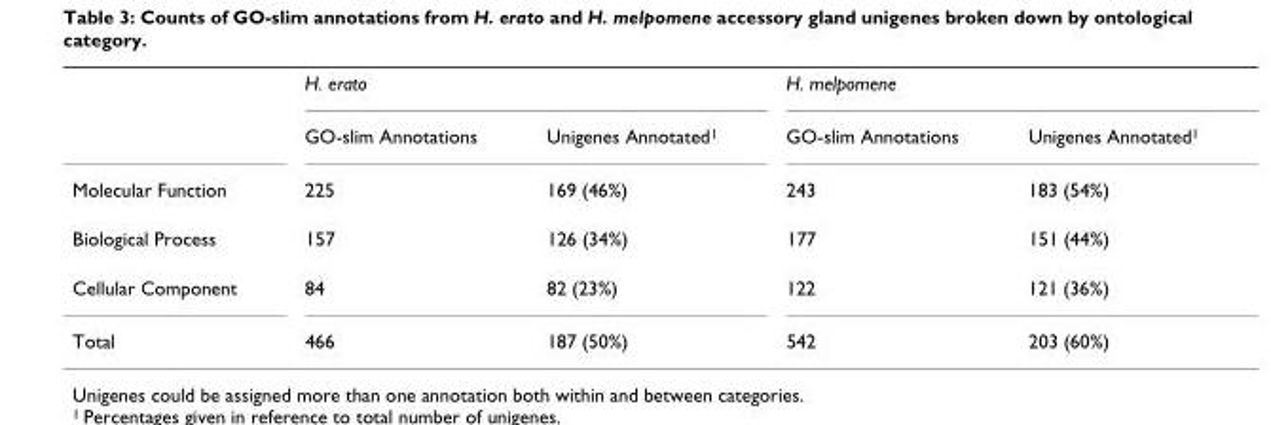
<table><thead><tr><td rowspan="2"></td><td colspan="2">H. erato</td><td colspan="2">H. melpomene</td></tr><tr><td>GO-slim Annotations</td><td>Unigenes Annotated<sup>1</sup></td><td>GO-slim Annotations</td><td>Unigenes Annotated<sup>1</sup></td></tr></thead><tbody><tr><td>Molecular Function</td><td>225</td><td>169 (46%)</td><td>243</td><td>183 (54%)</td></tr><tr><td>Biological Process</td><td>157</td><td>126 (34%)</td><td>177</td><td>151 (44%)</td></tr><tr><td>Cellular Component</td><td>84</td><td>82 (23%)</td><td>122</td><td>121 (36%)</td></tr><tr><td>Total</td><td>466</td><td>187 (50%)</td><td>542</td><td>203 (60%)</td></tr></tbody></table>